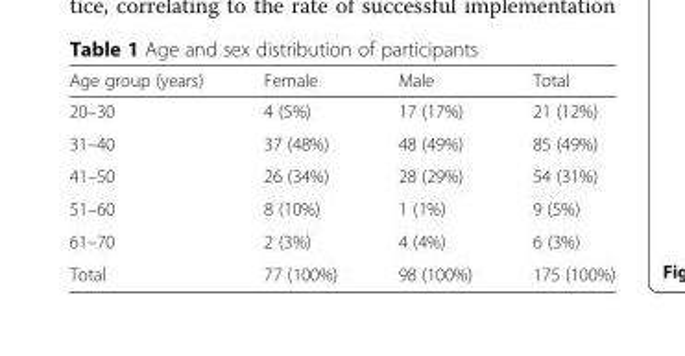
<table><thead><tr><td>Age group (years)</td><td>Female</td><td>Male</td><td>Total</td></tr></thead><tbody><tr><td>20–30</td><td>4 (5%)</td><td>17 (17%)</td><td>21 (12%)</td></tr><tr><td>31–40</td><td>37 (48%)</td><td>48 (49%)</td><td>85 (49%)</td></tr><tr><td>41–50</td><td>26 (34%)</td><td>28 (29%)</td><td>54 (31%)</td></tr><tr><td>51–60</td><td>8 (10%)</td><td>1 (1%)</td><td>9 (5%)</td></tr><tr><td>61–70</td><td>2 (3%)</td><td>4 (4%)</td><td>6 (3%)</td></tr><tr><td>Total</td><td>77 (100%)</td><td>98 (100%)</td><td>175 (100%)</td></tr></tbody></table>